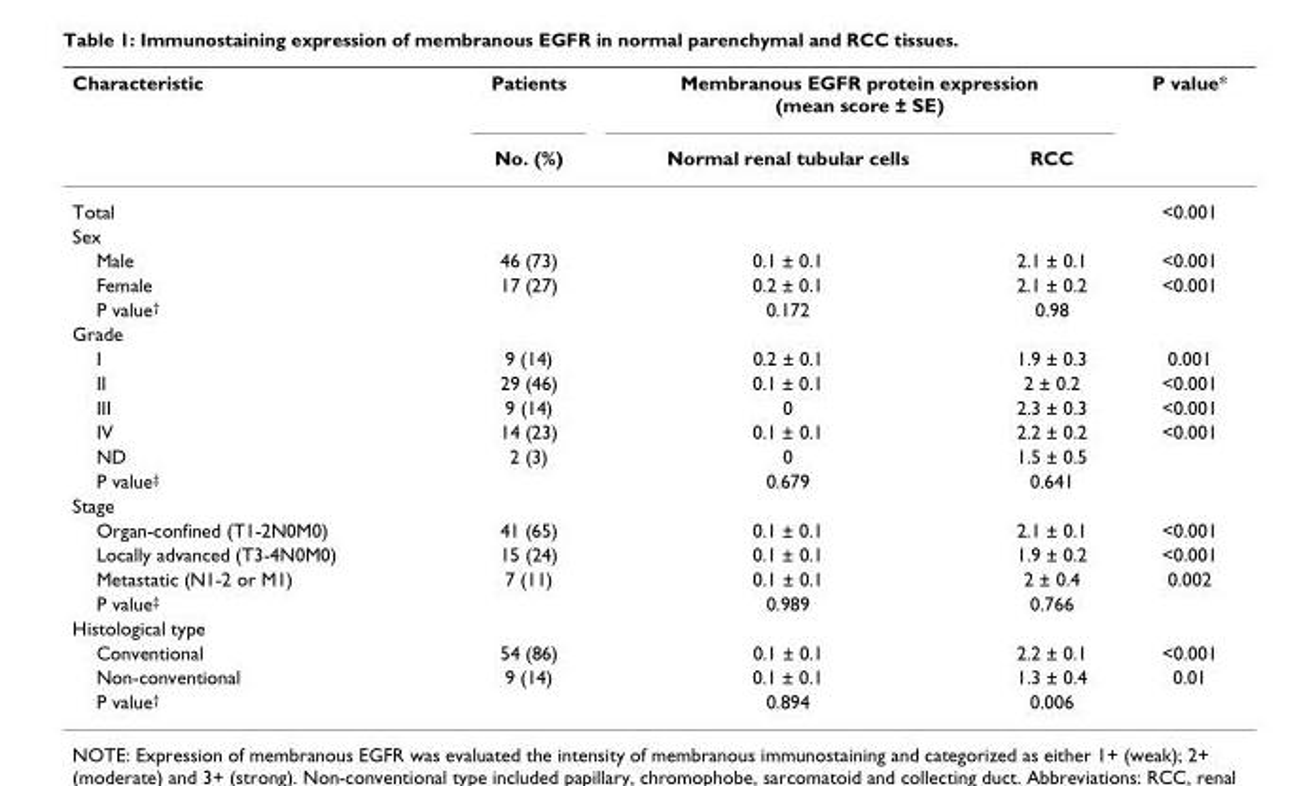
<table><thead><tr><td rowspan="2">Characteristic</td><td rowspan="2">Patients No. (%)</td><td colspan="2">Membranous EGFR protein expression (mean score ± SE)</td><td rowspan="2">P value*</td></tr><tr><td>Normal renal tubular cells</td><td>RCC</td></tr></thead><tbody><tr><td>Total</td><td></td><td></td><td></td><td>&lt;0.001</td></tr><tr><td colspan="5">Sex</td></tr><tr><td>Male</td><td>46 (73)</td><td>0.1 ± 0.1</td><td>2.1 ± 0.1</td><td>&lt;0.001</td></tr><tr><td>Female</td><td>17 (27)</td><td>0.2 ± 0.1</td><td>2.1 ± 0.2</td><td>&lt;0.001</td></tr><tr><td>P value<sup>†</sup></td><td></td><td>0.172</td><td>0.98</td><td></td></tr><tr><td colspan="5">Grade</td></tr><tr><td>I</td><td>9 (14)</td><td>0.2 ± 0.1</td><td>1.9 ± 0.3</td><td>0.001</td></tr><tr><td>II</td><td>29 (46)</td><td>0.1 ± 0.1</td><td>2 ± 0.2</td><td>&lt;0.001</td></tr><tr><td>III</td><td>9 (14)</td><td>0</td><td>2.3 ± 0.3</td><td>&lt;0.001</td></tr><tr><td>IV</td><td>14 (23)</td><td>0.1 ± 0.1</td><td>2.2 ± 0.2</td><td>&lt;0.001</td></tr><tr><td>ND</td><td>2 (3)</td><td>0</td><td>1.5 ± 0.5</td><td></td></tr><tr><td>P value<sup>‡</sup></td><td></td><td>0.679</td><td>0.641</td><td></td></tr><tr><td colspan="5">Stage</td></tr><tr><td>Organ-confined (T1-2N0M0)</td><td>41 (65)</td><td>0.1 ± 0.1</td><td>2.1 ± 0.1</td><td>&lt;0.001</td></tr><tr><td>Locally advanced (T3-4N0M0)</td><td>15 (24)</td><td>0.1 ± 0.1</td><td>1.9 ± 0.2</td><td>&lt;0.001</td></tr><tr><td>Metastatic (N1-2 or M1)</td><td>7 (11)</td><td>0.1 ± 0.1</td><td>2 ± 0.4</td><td>0.002</td></tr><tr><td>P value<sup>‡</sup></td><td></td><td>0.989</td><td>0.766</td><td></td></tr><tr><td colspan="5">Histological type</td></tr><tr><td>Conventional</td><td>54 (86)</td><td>0.1 ± 0.1</td><td>2.2 ± 0.1</td><td>&lt;0.001</td></tr><tr><td>Non-conventional</td><td>9 (14)</td><td>0.1 ± 0.1</td><td>1.3 ± 0.4</td><td>0.01</td></tr><tr><td>P value<sup>†</sup></td><td></td><td>0.894</td><td>0.006</td><td></td></tr></tbody></table>